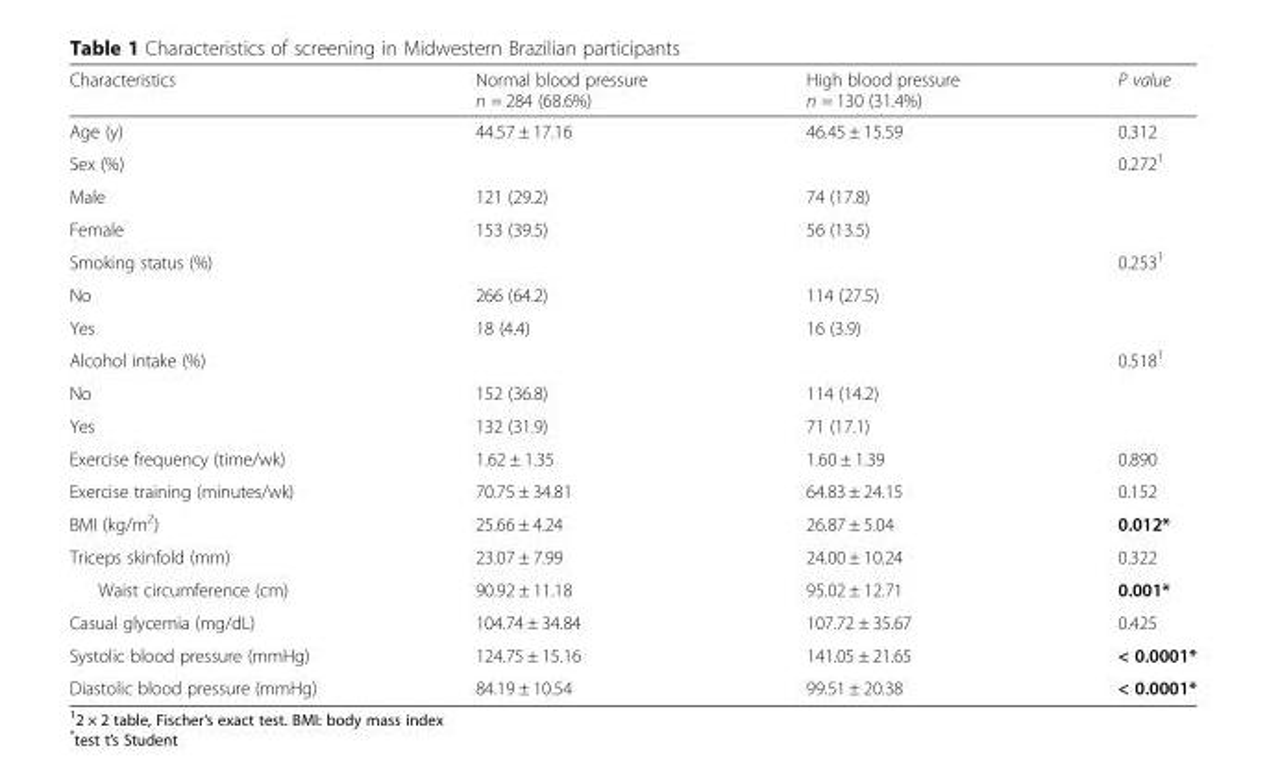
<table><thead><tr><td>Characteristics</td><td>Normal blood pressure n = 284 (68.6%)</td><td>High blood pressure n = 130 (31.4%)</td><td>P value</td></tr></thead><tbody><tr><td>Age (y)</td><td>44.57 ± 17.16</td><td>46.45 ± 15.59</td><td>0.312</td></tr><tr><td>Sex (%)</td><td></td><td></td><td>0.272<sup>1</sup></td></tr><tr><td>Male</td><td>121 (29.2)</td><td>74 (17.8)</td><td></td></tr><tr><td>Female</td><td>153 (39.5)</td><td>56 (13.5)</td><td></td></tr><tr><td>Smoking status (%)</td><td></td><td></td><td>0.253<sup>1</sup></td></tr><tr><td>No</td><td>266 (64.2)</td><td>114 (27.5)</td><td></td></tr><tr><td>Yes</td><td>18 (4.4)</td><td>16 (3.9)</td><td></td></tr><tr><td>Alcohol intake (%)</td><td></td><td></td><td>0.518<sup>1</sup></td></tr><tr><td>No</td><td>152 (36.8)</td><td>114 (14.2)</td><td></td></tr><tr><td>Yes</td><td>132 (31.9)</td><td>71 (17.1)</td><td></td></tr><tr><td>Exercise frequency (time/wk)</td><td>1.62 ± 1.35</td><td>1.60 ± 1.39</td><td>0.890</td></tr><tr><td>Exercise training (minutes/wk)</td><td>70.75 ± 34.81</td><td>64.83 ± 24.15</td><td>0.152</td></tr><tr><td>BMI (kg/m<sup>2</sup>)</td><td>25.66 ± 4.24</td><td>26.87 ± 5.04</td><td>0.012*</td></tr><tr><td>Triceps skinfold (mm)</td><td>23.07 ± 7.99</td><td>24.00 ± 10.24</td><td>0.322</td></tr><tr><td>Waist circumference (cm)</td><td>90.92 ± 11.18</td><td>95.02 ± 12.71</td><td>0.001*</td></tr><tr><td>Casual glycemia (mg/dL)</td><td>104.74 ± 34.84</td><td>107.72 ± 35.67</td><td>0.425</td></tr><tr><td>Systolic blood pressure (mmHg)</td><td>124.75 ± 15.16</td><td>141.05 ± 21.65</td><td>&lt; 0.0001*</td></tr><tr><td>Diastolic blood pressure (mmHg)</td><td>84.19 ± 10.54</td><td>99.51 ± 20.38</td><td>&lt; 0.0001*</td></tr></tbody></table>